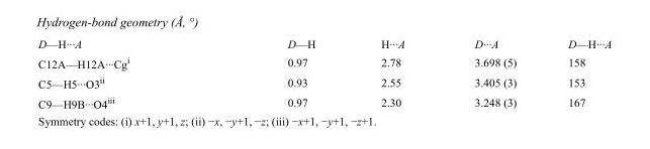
<table><tbody><tr><td>D—H···A</td><td>D—H</td><td>H···A</td><td>D···A</td><td>D—H···A</td></tr><tr><td>C12A—H12A···Cg<sup>i</sup></td><td>0.97</td><td>2.78</td><td>3.698 (5)</td><td>158</td></tr><tr><td>C5—H5···O3<sup>ii</sup></td><td>0.93</td><td>2.55</td><td>3.405 (3)</td><td>153</td></tr><tr><td>C9—H9B···O4<sup>iii</sup></td><td>0.97</td><td>2.30</td><td>3.248 (3)</td><td>167</td></tr></tbody></table>